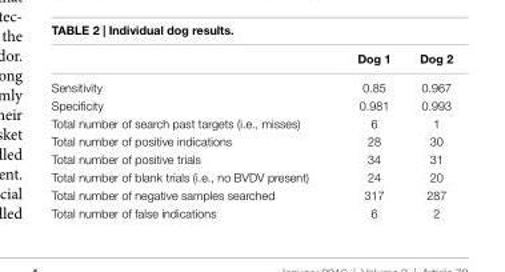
<table><thead><tr><td></td><td>Dog 1</td><td>Dog 2</td></tr></thead><tbody><tr><td>Sensitivity</td><td>0.85</td><td>0.967</td></tr><tr><td>Specificity</td><td>0.981</td><td>0.993</td></tr><tr><td>Total number of search past targets (i.e., misses)</td><td>6</td><td>1</td></tr><tr><td>Total number of positive indications</td><td>28</td><td>30</td></tr><tr><td>Total number of positive trials</td><td>34</td><td>31</td></tr><tr><td>Total number of blank trials (i.e., no BVDV present)</td><td>24</td><td>20</td></tr><tr><td>Total number of negative samples searched</td><td>317</td><td>287</td></tr><tr><td>Total number of false indications</td><td>6</td><td>2</td></tr></tbody></table>